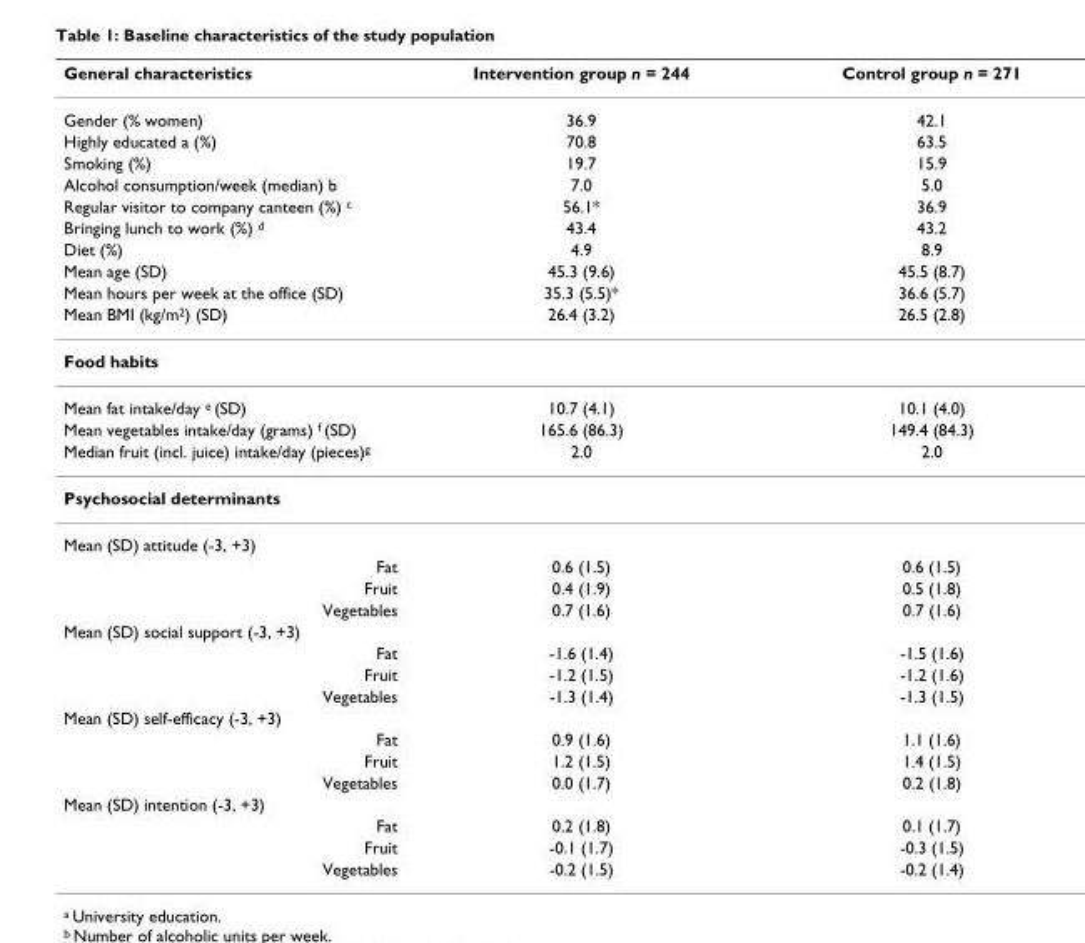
<table><thead><tr><td>General characteristics</td><td>Intervention group n = 244</td><td>Control group n = 271</td></tr></thead><tbody><tr><td>Gender (% women)</td><td>36.9</td><td>42.1</td></tr><tr><td>Highly educated a (%)</td><td>70.8</td><td>63.5</td></tr><tr><td>Smoking (%)</td><td>19.7</td><td>15.9</td></tr><tr><td>Alcohol consumption/week (median) b</td><td>7.0</td><td>5.0</td></tr><tr><td>Regular visitor to company canteen (%) c</td><td>56.1*</td><td>36.9</td></tr><tr><td>Bringing lunch to work (%) d</td><td>43.4</td><td>43.2</td></tr><tr><td>Diet (%)</td><td>4.9</td><td>8.9</td></tr><tr><td>Mean age (SD)</td><td>45.3 (9.6)</td><td>45.5 (8.7)</td></tr><tr><td>Mean hours per week at the office (SD)</td><td>35.3 (5.5)*</td><td>36.6 (5.7)</td></tr><tr><td>Mean BMI (kg/m2) (SD)</td><td>26.4 (3.2)</td><td>26.5 (2.8)</td></tr><tr><td colspan="3">Food habits</td></tr><tr><td>Mean fat intake/day e (SD)</td><td>10.7 (4.1)</td><td>10.1 (4.0)</td></tr><tr><td>Mean vegetables intake/day (grams) f (SD)</td><td>165.6 (86.3)</td><td>149.4 (84.3)</td></tr><tr><td>Median fruit (incl. juice) intake/day (pieces)g</td><td>2.0</td><td>2.0</td></tr><tr><td colspan="3">Psychosocial determinants</td></tr><tr><td colspan="3">Mean (SD) attitude (-3, +3)</td></tr><tr><td>Fat</td><td>0.6 (1.5)</td><td>0.6 (1.5)</td></tr><tr><td>Fruit</td><td>0.4 (1.9)</td><td>0.5 (1.8)</td></tr><tr><td>Vegetables</td><td>0.7 (1.6)</td><td>0.7 (1.6)</td></tr><tr><td colspan="3">Mean (SD) social support (-3, +3)</td></tr><tr><td>Fat</td><td>-1.6 (1.4)</td><td>-1.5 (1.6)</td></tr><tr><td>Fruit</td><td>-1.2 (1.5)</td><td>-1.2 (1.6)</td></tr><tr><td>Vegetables</td><td>-1.3 (1.4)</td><td>-1.3 (1.5)</td></tr><tr><td colspan="3">Mean (SD) self-efficacy (-3, +3)</td></tr><tr><td>Fat</td><td>0.9 (1.6)</td><td>1.1 (1.6)</td></tr><tr><td>Fruit</td><td>1.2 (1.5)</td><td>1.4 (1.5)</td></tr><tr><td>Vegetables</td><td>0.0 (1.7)</td><td>0.2 (1.8)</td></tr><tr><td colspan="3">Mean (SD) intention (-3, +3)</td></tr><tr><td>Fat</td><td>0.2 (1.8)</td><td>0.1 (1.7)</td></tr><tr><td>Fruit</td><td>-0.1 (1.7)</td><td>-0.3 (1.5)</td></tr><tr><td>Vegetables</td><td>-0.2 (1.5)</td><td>-0.2 (1.4)</td></tr></tbody></table>